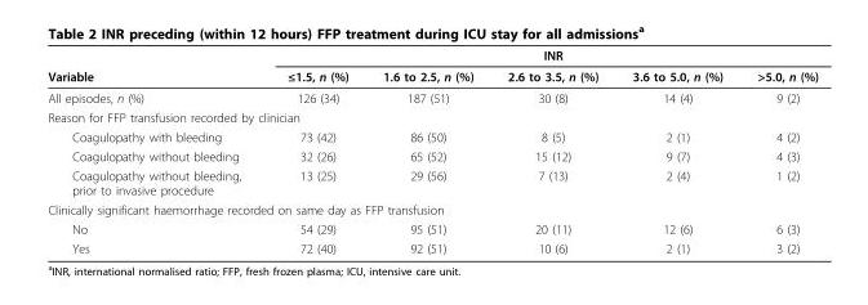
<table><thead><tr><td rowspan="2">Variable</td><td colspan="5">INR</td></tr><tr><td>≤1.5, n (%)</td><td>1.6 to 2.5, n (%)</td><td>2.6 to 3.5, n (%)</td><td>3.6 to 5.0, n (%)</td><td>&gt;5.0, n (%)</td></tr></thead><tbody><tr><td>All episodes, n (%)</td><td>126 (34)</td><td>187 (51)</td><td>30 (8)</td><td>14 (4)</td><td>9 (2)</td></tr><tr><td colspan="6">Reason for FFP transfusion recorded by clinician</td></tr><tr><td>Coagulopathy with bleeding</td><td>73 (42)</td><td>86 (50)</td><td>8 (5)</td><td>2 (1)</td><td>4 (2)</td></tr><tr><td>Coagulopathy without bleeding</td><td>32 (26)</td><td>65 (52)</td><td>15 (12)</td><td>9 (7)</td><td>4 (3)</td></tr><tr><td>Coagulopathy without bleeding, prior to invasive procedure</td><td>13 (25)</td><td>29 (56)</td><td>7 (13)</td><td>2 (4)</td><td>1 (2)</td></tr><tr><td colspan="6">Clinically significant haemorrhage recorded on same day as FFP transfusion</td></tr><tr><td>No</td><td>54 (29)</td><td>95 (51)</td><td>20 (11)</td><td>12 (6)</td><td>6 (3)</td></tr><tr><td>Yes</td><td>72 (40)</td><td>92 (51)</td><td>10 (6)</td><td>2 (1)</td><td>3 (2)</td></tr></tbody></table>